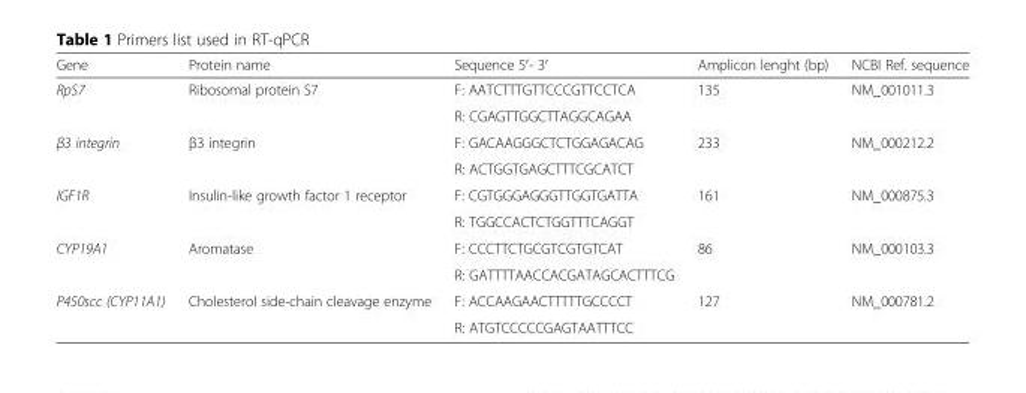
<table><thead><tr><td>Gene</td><td>Protein name</td><td>Sequence 5′- 3′</td><td>Amplicon lenght (bp)</td><td>NCBI Ref. sequence</td></tr></thead><tbody><tr><td rowspan="2">RpS7</td><td rowspan="2">Ribosomal protein S7</td><td>F: AATCTTTGTTCCCGTTCCTCA</td><td rowspan="2">135</td><td rowspan="2">NM_001011.3</td></tr><tr><td>R: CGAGTTGGCTTAGGCAGAA</td></tr><tr><td rowspan="2">β3 integrin</td><td rowspan="2">β3 integrin</td><td>F: GACAAGGGCTCTGGAGACAG</td><td rowspan="2">233</td><td rowspan="2">NM_000212.2</td></tr><tr><td>R: ACTGGTGAGCTTTCGCATCT</td></tr><tr><td rowspan="2">IGF1R</td><td rowspan="2">Insulin-like growth factor 1 receptor</td><td>F: CGTGGGAGGGTTGGTGATTA</td><td rowspan="2">161</td><td rowspan="2">NM_000875.3</td></tr><tr><td>R: TGGCCACTCTGGTTTCAGGT</td></tr><tr><td rowspan="2">CYP19A1</td><td rowspan="2">Aromatase</td><td>F: CCCTTCTGCGTCGTGTCAT</td><td rowspan="2">86</td><td rowspan="2">NM_000103.3</td></tr><tr><td>R: GATTTTAACCACGATAGCACTTTCG</td></tr><tr><td rowspan="2">P450scc (CYP11A1)</td><td rowspan="2">Cholesterol side-chain cleavage enzyme</td><td>F: ACCAAGAACTTTTTGCCCCT</td><td rowspan="2">127</td><td rowspan="2">NM_000781.2</td></tr><tr><td>R: ATGTCCCCCGAGTAATTTCC</td></tr></tbody></table>